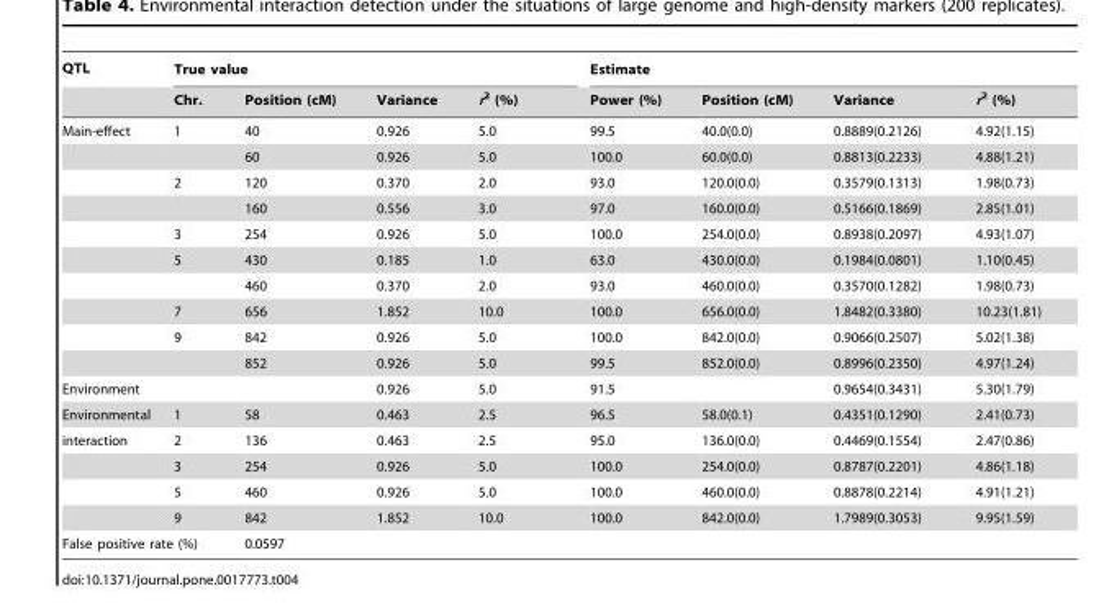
<table><thead><tr><td rowspan="2">QTL</td><td colspan="4">True value</td><td colspan="4">Estimate</td></tr><tr><td>Chr.</td><td>Position (cM)</td><td>Variance</td><td>r<sup>2</sup> (%)</td><td>Power (%)</td><td>Position (cM)</td><td>Variance</td><td>r<sup>2</sup> (%)</td></tr></thead><tbody><tr><td rowspan="10">Main-effect</td><td>1</td><td>40</td><td>0.926</td><td>5.0</td><td>99.5</td><td>40.0(0.0)</td><td>0.8889(0.2126)</td><td>4.92(1.15)</td></tr><tr><td></td><td>60</td><td>0.926</td><td>5.0</td><td>100.0</td><td>60.0(0.0)</td><td>0.8813(0.2233)</td><td>4.88(1.21)</td></tr><tr><td>2</td><td>120</td><td>0.370</td><td>2.0</td><td>93.0</td><td>120.0(0.0)</td><td>0.3579(0.1313)</td><td>1.98(0.73)</td></tr><tr><td></td><td>160</td><td>0.556</td><td>3.0</td><td>97.0</td><td>160.0(0.0)</td><td>0.5166(0.1869)</td><td>2.85(1.01)</td></tr><tr><td>3</td><td>254</td><td>0.926</td><td>5.0</td><td>100.0</td><td>254.0(0.0)</td><td>0.8938(0.2097)</td><td>4.93(1.07)</td></tr><tr><td>5</td><td>430</td><td>0.185</td><td>1.0</td><td>63.0</td><td>430.0(0.0)</td><td>0.1984(0.0801)</td><td>1.10(0.45)</td></tr><tr><td></td><td>460</td><td>0.370</td><td>2.0</td><td>93.0</td><td>460.0(0.0)</td><td>0.3570(0.1282)</td><td>1.98(0.73)</td></tr><tr><td>7</td><td>656</td><td>1.852</td><td>10.0</td><td>100.0</td><td>656.0(0.0)</td><td>1.8482(0.3380)</td><td>10.23(1.81)</td></tr><tr><td>9</td><td>842</td><td>0.926</td><td>5.0</td><td>100.0</td><td>842.0(0.0)</td><td>0.9066(0.2507)</td><td>5.02(1.38)</td></tr><tr><td></td><td>852</td><td>0.926</td><td>5.0</td><td>99.5</td><td>852.0(0.0)</td><td>0.8996(0.2350)</td><td>4.97(1.24)</td></tr><tr><td>Environment</td><td></td><td></td><td>0.926</td><td>5.0</td><td>91.5</td><td></td><td>0.9654(0.3431)</td><td>5.30(1.79)</td></tr><tr><td>Environmental</td><td>1</td><td>58</td><td>0.463</td><td>2.5</td><td>96.5</td><td>58.0(0.1)</td><td>0.4351(0.1290)</td><td>2.41(0.73)</td></tr><tr><td rowspan="4">interaction</td><td>2</td><td>136</td><td>0.463</td><td>2.5</td><td>95.0</td><td>136.0(0.0)</td><td>0.4469(0.1554)</td><td>2.47(0.86)</td></tr><tr><td>3</td><td>254</td><td>0.926</td><td>5.0</td><td>100.0</td><td>254.0(0.0)</td><td>0.8787(0.2201)</td><td>4.86(1.18)</td></tr><tr><td>5</td><td>460</td><td>0.926</td><td>5.0</td><td>100.0</td><td>460.0(0.0)</td><td>0.8878(0.2214)</td><td>4.91(1.21)</td></tr><tr><td>9</td><td>842</td><td>1.852</td><td>10.0</td><td>100.0</td><td>842.0(0.0)</td><td>1.7989(0.3053)</td><td>9.95(1.59)</td></tr><tr><td colspan="2">False positive rate (%)</td><td colspan="7">0.0597</td></tr></tbody></table>